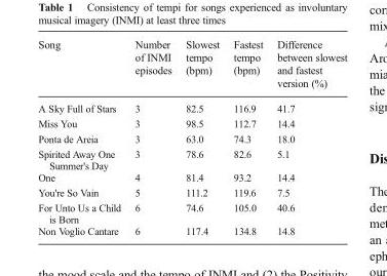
<table><thead><tr><td>Song</td><td>Number of INMI episodes</td><td>Slowest tempo (bpm)</td><td>Fastest tempo (bpm)</td><td>Difference between slowest and fastest version (%)</td></tr></thead><tbody><tr><td>A Sky Full of Stars</td><td>3</td><td>82.5</td><td>116.9</td><td>41.7</td></tr><tr><td>Miss You</td><td>3</td><td>98.5</td><td>112.7</td><td>14.4</td></tr><tr><td>Ponta de Areia</td><td>3</td><td>63.0</td><td>74.3</td><td>18.0</td></tr><tr><td>Spirited Away One Summer&#x27;s Day</td><td>3</td><td>78.6</td><td>82.6</td><td>5.1</td></tr><tr><td>One</td><td>4</td><td>81.4</td><td>93.2</td><td>14.4</td></tr><tr><td>You&#x27;re So Vain</td><td>5</td><td>111.2</td><td>119.6</td><td>7.5</td></tr><tr><td>For Unto Us a Child is Born</td><td>6</td><td>74.6</td><td>105.0</td><td>40.6</td></tr><tr><td>Non Voglio Cantare</td><td>6</td><td>117.4</td><td>134.8</td><td>14.8</td></tr></tbody></table>